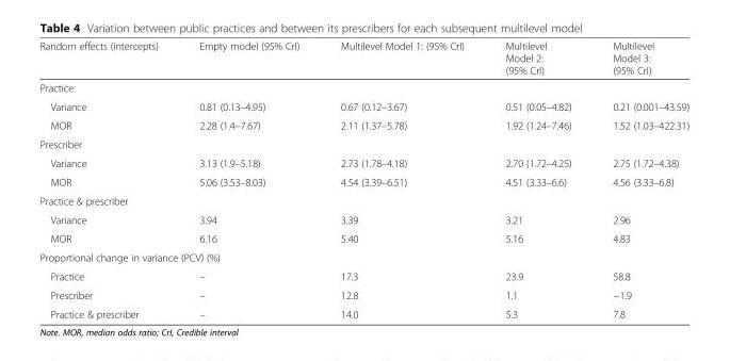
<table><thead><tr><td>Random effects (intercepts)</td><td>Empty model (95% CrI)</td><td>Multilevel Model 1: (95% CrI)</td><td>Multilevel Model 2: (95% CrI)</td><td>Multilevel Model 3: (95% CrI)</td></tr></thead><tbody><tr><td colspan="5">Practice</td></tr><tr><td>Variance</td><td>0.81 (0.13–4.95)</td><td>0.67 (0.12–3.67)</td><td>0.51 (0.05–4.82)</td><td>0.21 (0.001–43.59)</td></tr><tr><td>MOR</td><td>2.28 (1.4–7.67)</td><td>2.11 (1.37–5.78)</td><td>1.92 (1.24–7.46)</td><td>1.52 (1.03–422.31)</td></tr><tr><td colspan="5">Prescriber</td></tr><tr><td>Variance</td><td>3.13 (1.9–5.18)</td><td>2.73 (1.78–4.18)</td><td>2.70 (1.72–4.25)</td><td>2.75 (1.72–4.38)</td></tr><tr><td>MOR</td><td>5.06 (3.53–8.03)</td><td>4.54 (3.39–6.51)</td><td>4.51 (3.33–6.6)</td><td>4.56 (3.33–6.8)</td></tr><tr><td colspan="5">Practice &amp; prescriber</td></tr><tr><td>Variance</td><td>3.94</td><td>3.39</td><td>3.21</td><td>2.96</td></tr><tr><td>MOR</td><td>6.16</td><td>5.40</td><td>5.16</td><td>4.83</td></tr><tr><td colspan="5">Proportional change in variance (PCV) (%)</td></tr><tr><td>Practice</td><td>–</td><td>17.3</td><td>23.9</td><td>58.8</td></tr><tr><td>Prescriber</td><td>–</td><td>12.8</td><td>1.1</td><td>−1.9</td></tr><tr><td>Practice &amp; prescriber</td><td>–</td><td>14.0</td><td>5.3</td><td>7.8</td></tr></tbody></table>